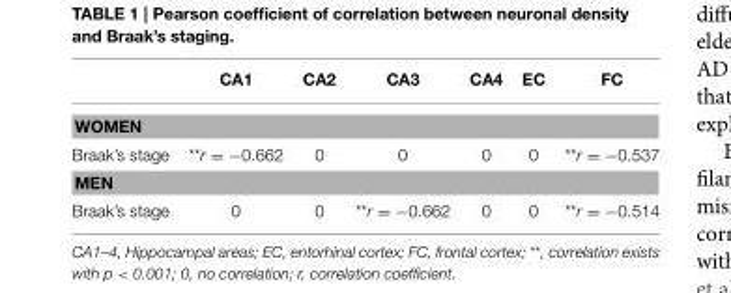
<table><thead><tr><td></td><td>CA1</td><td>CA2</td><td>CA3</td><td>CA4</td><td>EC</td><td>FC</td></tr></thead><tbody><tr><td colspan="7">WOMEN</td></tr><tr><td>Braak’s stage</td><td>**r = −0.662</td><td>0</td><td>0</td><td>0</td><td>0</td><td>**r = −0.537</td></tr><tr><td colspan="7">MEN</td></tr><tr><td>Braak’s stage</td><td>0</td><td>0</td><td>**r = −0.662</td><td>0</td><td>0</td><td>**r = −0.514</td></tr></tbody></table>